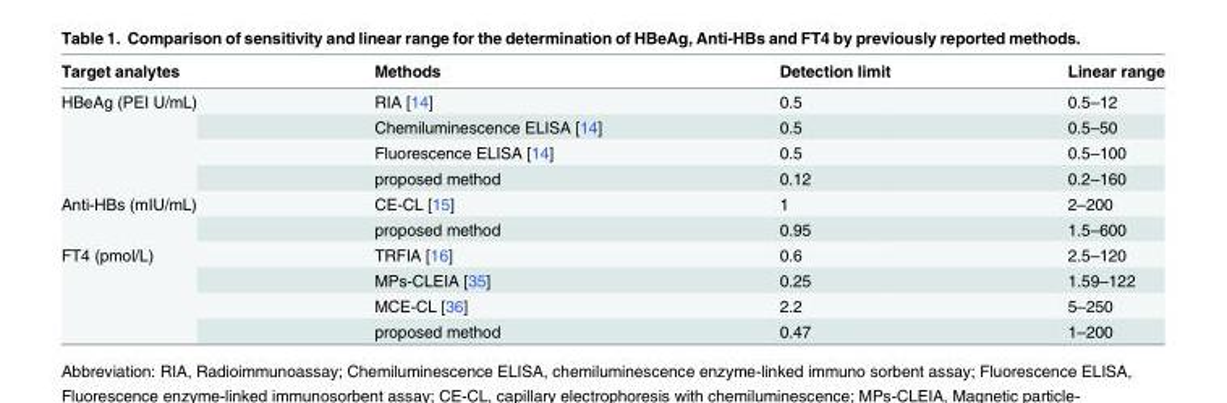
<table><thead><tr><td>Target analytes</td><td>Methods</td><td>Detection limit</td><td>Linear range</td></tr></thead><tbody><tr><td rowspan="4">HBeAg (PEI U/mL)</td><td>RIA [14]</td><td>0.5</td><td>0.5–12</td></tr><tr><td>Chemiluminescence ELISA [14]</td><td>0.5</td><td>0.5–50</td></tr><tr><td>Fluorescence ELISA [14]</td><td>0.5</td><td>0.5–100</td></tr><tr><td>proposed method</td><td>0.12</td><td>0.2–160</td></tr><tr><td rowspan="2">Anti-HBs (mIU/mL)</td><td>CE-CL [15]</td><td>1</td><td>2–200</td></tr><tr><td>proposed method</td><td>0.95</td><td>1.5–600</td></tr><tr><td rowspan="4">FT4 (pmol/L)</td><td>TRFIA [16]</td><td>0.6</td><td>2.5–120</td></tr><tr><td>MPs-CLEIA [35]</td><td>0.25</td><td>1.59–122</td></tr><tr><td>MCE-CL [36]</td><td>2.2</td><td>5–250</td></tr><tr><td>proposed method</td><td>0.47</td><td>1–200</td></tr></tbody></table>